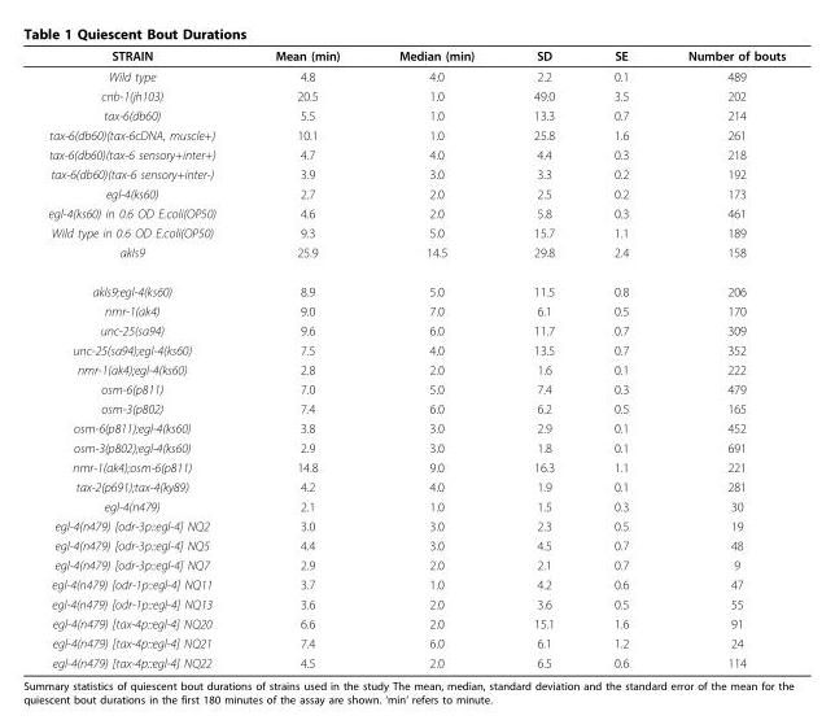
<table><thead><tr><td>STRAIN</td><td>Mean (min)</td><td>Median (min)</td><td>SD</td><td>SE</td><td>Number of bouts</td></tr></thead><tbody><tr><td>Wild type</td><td>4.8</td><td>4.0</td><td>2.2</td><td>0.1</td><td>489</td></tr><tr><td>cnb-1(jh103)</td><td>20.5</td><td>1.0</td><td>49.0</td><td>3.5</td><td>202</td></tr><tr><td>tax-6(db60)</td><td>5.5</td><td>1.0</td><td>13.3</td><td>0.7</td><td>214</td></tr><tr><td>tax-6(db60)(tax-6cDNA, muscle+)</td><td>10.1</td><td>1.0</td><td>25.8</td><td>1.6</td><td>261</td></tr><tr><td>tax-6(db60)(tax-6 sensory+inter+)</td><td>4.7</td><td>4.0</td><td>4.4</td><td>0.3</td><td>218</td></tr><tr><td>tax-6(db60)(tax-6 sensory+inter-)</td><td>3.9</td><td>3.0</td><td>3.3</td><td>0.2</td><td>192</td></tr><tr><td>egl-4(ks60)</td><td>2.7</td><td>2.0</td><td>2.5</td><td>0.2</td><td>173</td></tr><tr><td>egl-4(ks60) in 0.6 OD E.coli(OP50)</td><td>4.6</td><td>2.0</td><td>5.8</td><td>0.3</td><td>461</td></tr><tr><td>Wild type in 0.6 OD E.coli(OP50)</td><td>9.3</td><td>5.0</td><td>15.7</td><td>1.1</td><td>189</td></tr><tr><td>akIs9</td><td>25.9</td><td>14.5</td><td>29.8</td><td>2.4</td><td>158</td></tr><tr><td>akIs9;egl-4(ks60)</td><td>8.9</td><td>5.0</td><td>11.5</td><td>0.8</td><td>206</td></tr><tr><td>nmr-1(ak4)</td><td>9.0</td><td>7.0</td><td>6.1</td><td>0.5</td><td>170</td></tr><tr><td>unc-25(sa94)</td><td>9.6</td><td>6.0</td><td>11.7</td><td>0.7</td><td>309</td></tr><tr><td>unc-25(sa94);egl-4(ks60)</td><td>7.5</td><td>4.0</td><td>13.5</td><td>0.7</td><td>352</td></tr><tr><td>nmr-1(ak4);egl-4(ks60)</td><td>2.8</td><td>2.0</td><td>1.6</td><td>0.1</td><td>222</td></tr><tr><td>osm-6(p811)</td><td>7.0</td><td>5.0</td><td>7.4</td><td>0.3</td><td>479</td></tr><tr><td>osm-3(p802)</td><td>7.4</td><td>6.0</td><td>6.2</td><td>0.5</td><td>165</td></tr><tr><td>osm-6(p811);egl-4(ks60)</td><td>3.8</td><td>3.0</td><td>2.9</td><td>0.1</td><td>452</td></tr><tr><td>osm-3(p802);egl-4(ks60)</td><td>2.9</td><td>3.0</td><td>1.8</td><td>0.1</td><td>691</td></tr><tr><td>nmr-1(ak4);osm-6(p811)</td><td>14.8</td><td>9.0</td><td>16.3</td><td>1.1</td><td>221</td></tr><tr><td>tax-2(p691);tax-4(ky89)</td><td>4.2</td><td>4.0</td><td>1.9</td><td>0.1</td><td>281</td></tr><tr><td>egl-4(n479)</td><td>2.1</td><td>1.0</td><td>1.5</td><td>0.3</td><td>30</td></tr><tr><td>egl-4(n479) [odr-3p::egl-4] NQ2</td><td>3.0</td><td>3.0</td><td>2.3</td><td>0.5</td><td>19</td></tr><tr><td>egl-4(n479) [odr-3p::egl-4] NQ5</td><td>4.4</td><td>3.0</td><td>4.5</td><td>0.7</td><td>48</td></tr><tr><td>egl-4(n479) [odr-3p::egl-4] NQ7</td><td>2.9</td><td>2.0</td><td>2.1</td><td>0.7</td><td>9</td></tr><tr><td>egl-4(n479) [odr-1p::egl-4] NQ11</td><td>3.7</td><td>1.0</td><td>4.2</td><td>0.6</td><td>47</td></tr><tr><td>egl-4(n479) [odr-1p::egl-4] NQ13</td><td>3.6</td><td>2.0</td><td>3.6</td><td>0.5</td><td>55</td></tr><tr><td>egl-4(n479) [tax-4p::egl-4] NQ20</td><td>6.6</td><td>2.0</td><td>15.1</td><td>1.6</td><td>91</td></tr><tr><td>egl-4(n479) [tax-4p::egl-4] NQ21</td><td>7.4</td><td>6.0</td><td>6.1</td><td>1.2</td><td>24</td></tr><tr><td>egl-4(n479) [tax-4p::egl-4] NQ22</td><td>4.5</td><td>2.0</td><td>6.5</td><td>0.6</td><td>114</td></tr></tbody></table>